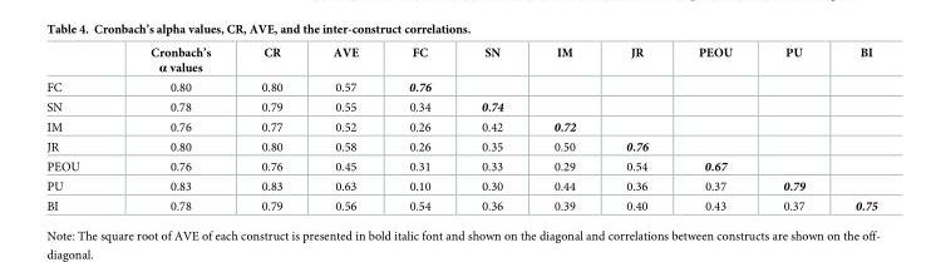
<table><thead><tr><td></td><td>Cronbach’s α values</td><td>CR</td><td>AVE</td><td>FC</td><td>SN</td><td>IM</td><td>JR</td><td>PEOU</td><td>PU</td><td>BI</td></tr></thead><tbody><tr><td>FC</td><td>0.80</td><td>0.80</td><td>0.57</td><td>0.76</td><td></td><td></td><td></td><td></td><td></td><td></td></tr><tr><td>SN</td><td>0.78</td><td>0.79</td><td>0.55</td><td>0.34</td><td>0.74</td><td></td><td></td><td></td><td></td><td></td></tr><tr><td>IM</td><td>0.76</td><td>0.77</td><td>0.52</td><td>0.26</td><td>0.42</td><td>0.72</td><td></td><td></td><td></td><td></td></tr><tr><td>JR</td><td>0.80</td><td>0.80</td><td>0.58</td><td>0.26</td><td>0.35</td><td>0.50</td><td>0.76</td><td></td><td></td><td></td></tr><tr><td>PEOU</td><td>0.76</td><td>0.76</td><td>0.45</td><td>0.31</td><td>0.33</td><td>0.29</td><td>0.54</td><td>0.67</td><td></td><td></td></tr><tr><td>PU</td><td>0.83</td><td>0.83</td><td>0.63</td><td>0.10</td><td>0.30</td><td>0.44</td><td>0.36</td><td>0.37</td><td>0.79</td><td></td></tr><tr><td>BI</td><td>0.78</td><td>0.79</td><td>0.56</td><td>0.54</td><td>0.36</td><td>0.39</td><td>0.40</td><td>0.43</td><td>0.37</td><td>0.75</td></tr></tbody></table>